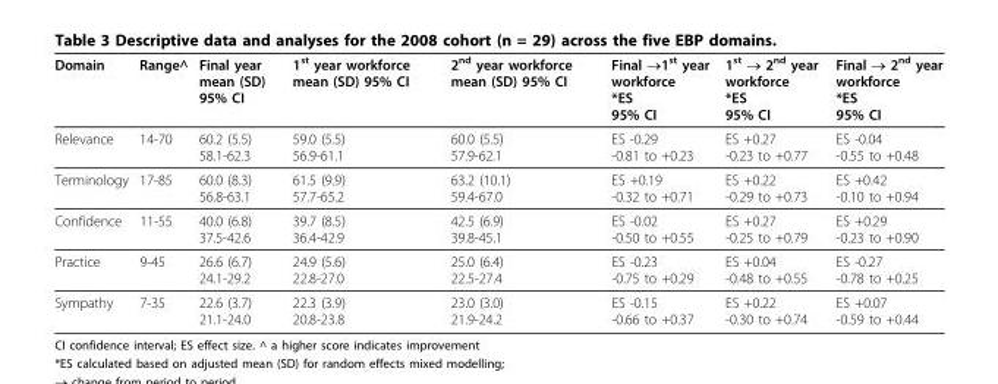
<table><thead><tr><td>Domain</td><td>Range^</td><td>Final year mean (SD) 95% CI</td><td>1<sup>st</sup> year workforce mean (SD) 95% CI</td><td>2<sup>nd</sup> year workforce mean (SD) 95% CI</td><td>Final →1<sup>st</sup> year workforce *ES 95% CI</td><td>1<sup>st</sup> → 2<sup>nd</sup> year workforce *ES 95% CI</td><td>Final → 2<sup>nd</sup> year workforce *ES 95% CI</td></tr></thead><tbody><tr><td>Relevance</td><td>14-70</td><td>60.2 (5.5) 58.1-62.3</td><td>59.0 (5.5) 56.9-61.1</td><td>60.0 (5.5) 57.9-62.1</td><td>ES -0.29 -0.81 to +0.23</td><td>ES +0.27 -0.23 to +0.77</td><td>ES -0.04 -0.55 to +0.48</td></tr><tr><td>Terminology</td><td>17-85</td><td>60.0 (8.3) 56.8-63.1</td><td>61.5 (9.9) 57.7-65.2</td><td>63.2 (10.1) 59.4-67.0</td><td>ES +0.19 -0.32 to +0.71</td><td>ES +0.22 -0.29 to +0.73</td><td>ES +0.42 -0.10 to +0.94</td></tr><tr><td>Confidence</td><td>11-55</td><td>40.0 (6.8) 37.5-42.6</td><td>39.7 (8.5) 36.4-42.9</td><td>42.5 (6.9) 39.8-45.1</td><td>ES -0.02 -0.50 to +0.55</td><td>ES +0.27 -0.25 to +0.79</td><td>ES +0.29 -0.23 to +0.90</td></tr><tr><td>Practice</td><td>9-45</td><td>26.6 (6.7) 24.1-29.2</td><td>24.9 (5.6) 22.8-27.0</td><td>25.0 (6.4) 22.5-27.4</td><td>ES -0.23 -0.75 to +0.29</td><td>ES +0.04 -0.48 to +0.55</td><td>ES -0.27 -0.78 to +0.25</td></tr><tr><td>Sympathy</td><td>7-35</td><td>22.6 (3.7) 21.1-24.0</td><td>22.3 (3.9) 20.8-23.8</td><td>23.0 (3.0) 21.9-24.2</td><td>ES -0.15 -0.66 to +0.37</td><td>ES +0.22 -0.30 to +0.74</td><td>ES +0.07 -0.59 to +0.44</td></tr></tbody></table>